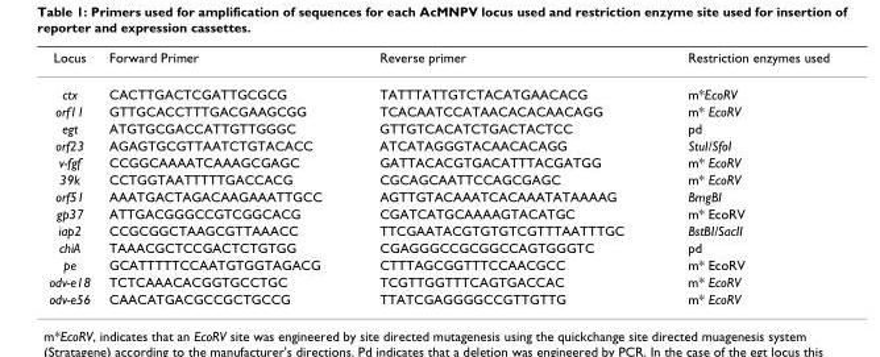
<table><thead><tr><td>Locus</td><td>Forward Primer</td><td>Reverse primer</td><td>Restriction enzymes used</td></tr></thead><tbody><tr><td>ctx</td><td>CACTTGACTCGATTGCGCG</td><td>TATTTATTGTCTACATGAACACG</td><td>m*EcoRV</td></tr><tr><td>orf11</td><td>GTTGCACCTTTGACGAAGCGG</td><td>TCACAATCCATAACACACAACAGG</td><td>m* EcoRV</td></tr><tr><td>egt</td><td>ATGTGCGACCATTGTTGGGC</td><td>GTTGTCACATCTGACTACTCC</td><td>pd</td></tr><tr><td>orf23</td><td>AGAGTGCGTTAATCTGTACACC</td><td>ATCATAGGGTACAACACAGG</td><td>StuI/SfoI</td></tr><tr><td>v-fgf</td><td>CCGGCAAAATCAAAGCGAGC</td><td>GATTACACGTGACATTTACGATGG</td><td>m* EcoRV</td></tr><tr><td>39k</td><td>CCTGGTAATTTTTGACCACG</td><td>CGCAGCAATTCCAGCGAGC</td><td>m* EcoRV</td></tr><tr><td>orf51</td><td>AAATGACTAGACAAGAAATTGCC</td><td>AGTTGTACAAATCACAAATATAAAAG</td><td>BmgBI</td></tr><tr><td>gp37</td><td>ATTGACGGGCCGTCGGCACG</td><td>CGATCATGCAAAAGTACATGC</td><td>m* EcoRV</td></tr><tr><td>iap2</td><td>CCGCGGCTAAGCGTTAAACC</td><td>TTCGAATACGTGTGTCGTTTAATTTGC</td><td>BstBI/SacII</td></tr><tr><td>chiA</td><td>TAAACGCTCCGACTCTGTGG</td><td>CGAGGGCCGCGGCCAGTGGGTC</td><td>pd</td></tr><tr><td>pe</td><td>GCATTTTTCCAATGTGGTAGACG</td><td>CTTTAGCGGTTTCCAACGCC</td><td>m* EcoRV</td></tr><tr><td>odv-e18</td><td>TCTCAAACACGGTGCCTGC</td><td>TCGTTGGTTTCAGTGACCAC</td><td>m* EcoRV</td></tr><tr><td>odv-e56</td><td>CAACATGACGCCGCTGCCG</td><td>TTATCGAGGGGCCGTTGTTG</td><td>m* EcoRV</td></tr></tbody></table>